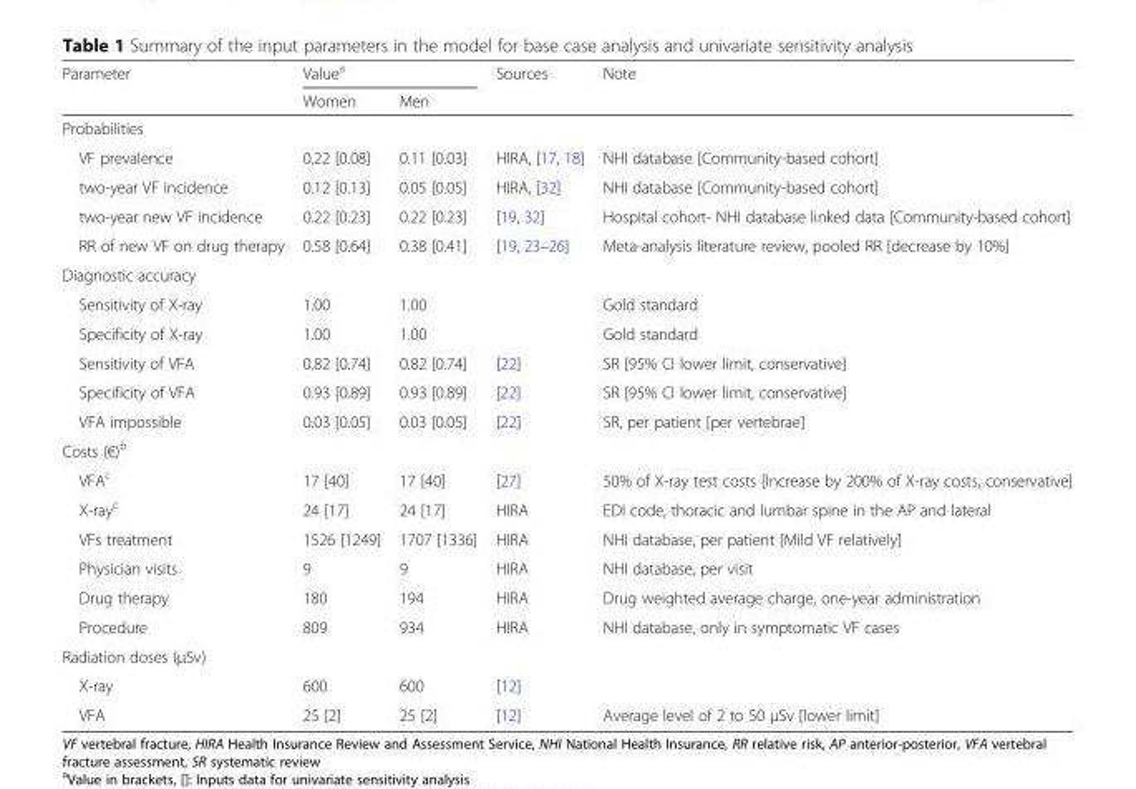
<table><thead><tr><td rowspan="2">Parameter</td><td colspan="2">Value<sup>a</sup></td><td rowspan="2">Sources</td><td rowspan="2">Note</td></tr><tr><td>Women</td><td>Men</td></tr></thead><tbody><tr><td colspan="5">Probabilities</td></tr><tr><td>VF prevalence</td><td>0.22 [0.08]</td><td>0.11 [0.03]</td><td>HIRA, [17, 18]</td><td>NHI database [Community-based cohort]</td></tr><tr><td>two-year VF incidence</td><td>0.12 [0.13]</td><td>0.05 [0.05]</td><td>HIRA, [32]</td><td>NHI database [Community-based cohort]</td></tr><tr><td>two-year new VF incidence</td><td>0.22 [0.23]</td><td>0.22 [0.23]</td><td>[19, 32]</td><td>Hospital cohort- NHI database linked data [Community-based cohort]</td></tr><tr><td>RR of new VF on drug therapy</td><td>0.58 [0.64]</td><td>0.38 [0.41]</td><td>[19, 23–26]</td><td>Meta-analysis literature review, pooled RR [decrease by 10%]</td></tr><tr><td colspan="5">Diagnostic accuracy</td></tr><tr><td>Sensitivity of X-ray</td><td>1.00</td><td>1.00</td><td></td><td>Gold standard</td></tr><tr><td>Specificity of X-ray</td><td>1.00</td><td>1.00</td><td></td><td>Gold standard</td></tr><tr><td>Sensitivity of VFA</td><td>0.82 [0.74]</td><td>0.82 [0.74]</td><td>[22]</td><td>SR [95% CI lower limit, conservative]</td></tr><tr><td>Specificity of VFA</td><td>0.93 [0.89]</td><td>0.93 [0.89]</td><td>[22]</td><td>SR [95% CI lower limit, conservative]</td></tr><tr><td>VFA impossible</td><td>0.03 [0.05]</td><td>0.03 [0.05]</td><td>[22]</td><td>SR, per patient [per vertebrae]</td></tr><tr><td colspan="5">Costs (€)<sup>b</sup></td></tr><tr><td>VFA<sup>c</sup></td><td>17 [40]</td><td>17 [40]</td><td>[27]</td><td>50% of X-ray test costs [Increase by 200% of X-ray costs, conservative]</td></tr><tr><td>X-ray<sup>c</sup></td><td>24 [17]</td><td>24 [17]</td><td>HIRA</td><td>EDI code, thoracic and lumbar spine in the AP and lateral</td></tr><tr><td>VFs treatment</td><td>1526 [1249]</td><td>1707 [1336]</td><td>HIRA</td><td>NHI database, per patient [Mild VF relatively]</td></tr><tr><td>Physician visits</td><td>9</td><td>9</td><td>HIRA</td><td>NHI database, per visit</td></tr><tr><td>Drug therapy</td><td>180</td><td>194</td><td>HIRA</td><td>Drug weighted average charge, one-year administration</td></tr><tr><td>Procedure</td><td>809</td><td>934</td><td>HIRA</td><td>NHI database, only in symptomatic VF cases</td></tr><tr><td colspan="5">Radiation doses (μSv)</td></tr><tr><td>X-ray</td><td>600</td><td>600</td><td>[12]</td><td></td></tr><tr><td>VFA</td><td>25 [2]</td><td>25 [2]</td><td>[12]</td><td>Average level of 2 to 50 μSv [lower limit]</td></tr></tbody></table>